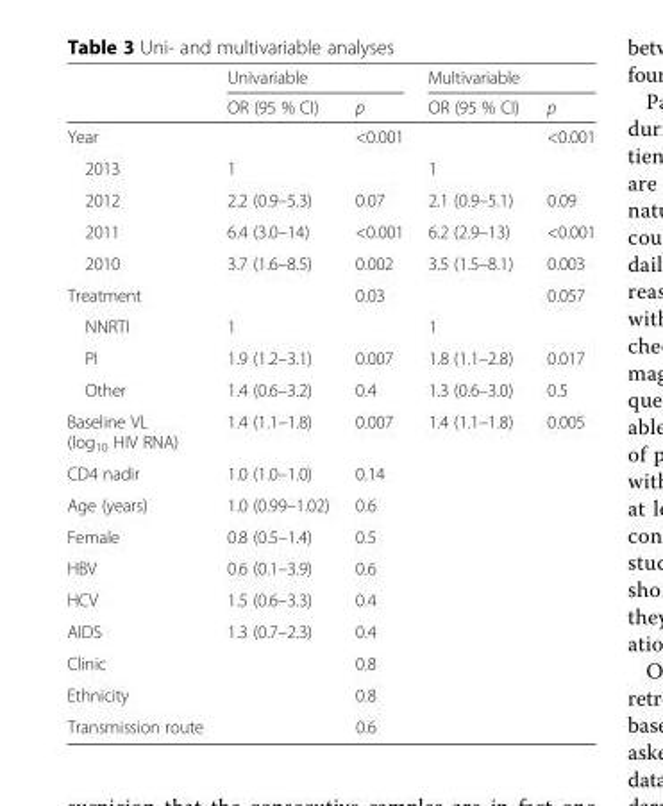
<table><thead><tr><td rowspan="2"></td><td colspan="2">Univariable</td><td colspan="2">Multivariable</td></tr><tr><td>OR (95 % CI)</td><td>p</td><td>OR (95 % CI)</td><td>p</td></tr></thead><tbody><tr><td>Year</td><td></td><td>&lt;0.001</td><td></td><td>&lt;0.001</td></tr><tr><td>2013</td><td>1</td><td></td><td>1</td><td></td></tr><tr><td>2012</td><td>2.2 (0.9–5.3)</td><td>0.07</td><td>2.1 (0.9–5.1)</td><td>0.09</td></tr><tr><td>2011</td><td>6.4 (3.0–14)</td><td>&lt;0.001</td><td>6.2 (2.9–13)</td><td>&lt;0.001</td></tr><tr><td>2010</td><td>3.7 (1.6–8.5)</td><td>0.002</td><td>3.5 (1.5–8.1)</td><td>0.003</td></tr><tr><td>Treatment</td><td></td><td>0.03</td><td></td><td>0.057</td></tr><tr><td>NNRTI</td><td>1</td><td></td><td>1</td><td></td></tr><tr><td>PI</td><td>1.9 (1.2–3.1)</td><td>0.007</td><td>1.8 (1.1–2.8)</td><td>0.017</td></tr><tr><td>Other</td><td>1.4 (0.6–3.2)</td><td>0.4</td><td>1.3 (0.6–3.0)</td><td>0.5</td></tr><tr><td>Baseline VL (log<sub>10</sub> HIV RNA)</td><td>1.4 (1.1–1.8)</td><td>0.007</td><td>1.4 (1.1–1.8)</td><td>0.005</td></tr><tr><td>CD4 nadir</td><td>1.0 (1.0–1.0)</td><td>0.14</td><td></td><td></td></tr><tr><td>Age (years)</td><td>1.0 (0.99–1.02)</td><td>0.6</td><td></td><td></td></tr><tr><td>Female</td><td>0.8 (0.5–1.4)</td><td>0.5</td><td></td><td></td></tr><tr><td>HBV</td><td>0.6 (0.1–3.9)</td><td>0.6</td><td></td><td></td></tr><tr><td>HCV</td><td>1.5 (0.6–3.3)</td><td>0.4</td><td></td><td></td></tr><tr><td>AIDS</td><td>1.3 (0.7–2.3)</td><td>0.4</td><td></td><td></td></tr><tr><td>Clinic</td><td></td><td>0.8</td><td></td><td></td></tr><tr><td>Ethnicity</td><td></td><td>0.8</td><td></td><td></td></tr><tr><td>Transmission route</td><td></td><td>0.6</td><td></td><td></td></tr></tbody></table>